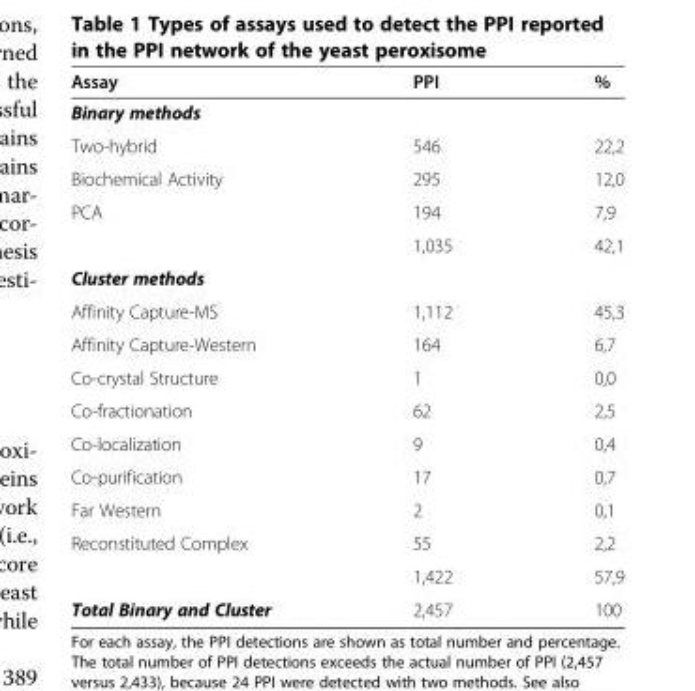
<table><thead><tr><td>Assay</td><td>PPI</td><td>%</td></tr></thead><tbody><tr><td colspan="3">Binary methods</td></tr><tr><td>Two-hybrid</td><td>546</td><td>22,2</td></tr><tr><td>Biochemical Activity</td><td>295</td><td>12,0</td></tr><tr><td rowspan="2">PCA</td><td>194</td><td>7,9</td></tr><tr><td>1,035</td><td>42,1</td></tr><tr><td colspan="3">Cluster methods</td></tr><tr><td>Affinity Capture-MS</td><td>1,112</td><td>45,3</td></tr><tr><td>Affinity Capture-Western</td><td>164</td><td>6,7</td></tr><tr><td>Co-crystal Structure</td><td>1</td><td>0,0</td></tr><tr><td>Co-fractionation</td><td>62</td><td>2,5</td></tr><tr><td>Co-localization</td><td>9</td><td>0,4</td></tr><tr><td>Co-purification</td><td>17</td><td>0,7</td></tr><tr><td>Far Western</td><td>2</td><td>0,1</td></tr><tr><td rowspan="2">Reconstituted Complex</td><td>55</td><td>2,2</td></tr><tr><td>1,422</td><td>57,9</td></tr><tr><td>Total Binary and Cluster</td><td>2,457</td><td>100</td></tr></tbody></table>